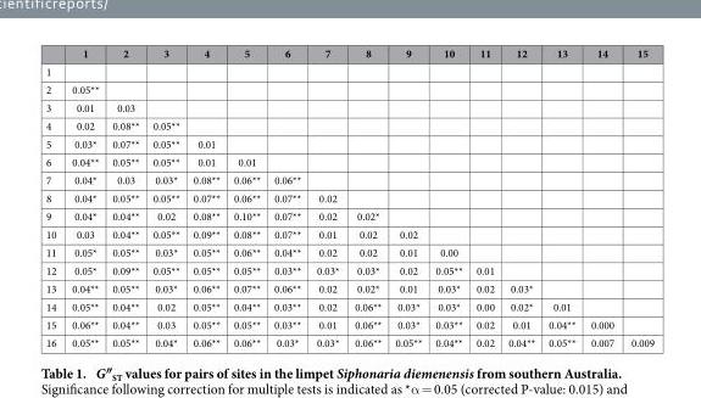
<table><thead><tr><td></td><td>1</td><td>2</td><td>3</td><td>4</td><td>5</td><td>6</td><td>7</td><td>8</td><td>9</td><td>10</td><td>11</td><td>12</td><td>13</td><td>14</td><td>15</td></tr></thead><tbody><tr><td colspan="16">1</td></tr><tr><td>2</td><td>0.05**</td><td></td><td></td><td></td><td></td><td></td><td></td><td></td><td></td><td></td><td></td><td></td><td></td><td></td><td></td></tr><tr><td>3</td><td>0.01</td><td>0.03</td><td></td><td></td><td></td><td></td><td></td><td></td><td></td><td></td><td></td><td></td><td></td><td></td><td></td></tr><tr><td>4</td><td>0.02</td><td>0.08**</td><td>0.05**</td><td></td><td></td><td></td><td></td><td></td><td></td><td></td><td></td><td></td><td></td><td></td><td></td></tr><tr><td>5</td><td>0.03*</td><td>0.07**</td><td>0.05**</td><td>0.01</td><td></td><td></td><td></td><td></td><td></td><td></td><td></td><td></td><td></td><td></td><td></td></tr><tr><td>6</td><td>0.04**</td><td>0.05**</td><td>0.05**</td><td>0.01</td><td>0.01</td><td></td><td></td><td></td><td></td><td></td><td></td><td></td><td></td><td></td><td></td></tr><tr><td>7</td><td>0.04*</td><td>0.03</td><td>0.03*</td><td>0.08**</td><td>0.06**</td><td>0.06**</td><td></td><td></td><td></td><td></td><td></td><td></td><td></td><td></td><td></td></tr><tr><td>8</td><td>0.04*</td><td>0.05**</td><td>0.05**</td><td>0.07**</td><td>0.06**</td><td>0.07**</td><td>0.02</td><td></td><td></td><td></td><td></td><td></td><td></td><td></td><td></td></tr><tr><td>9</td><td>0.04*</td><td>0.04**</td><td>0.02</td><td>0.08**</td><td>0.10**</td><td>0.07**</td><td>0.02</td><td>0.02*</td><td></td><td></td><td></td><td></td><td></td><td></td><td></td></tr><tr><td>10</td><td>0.03</td><td>0.04**</td><td>0.05**</td><td>0.09**</td><td>0.08**</td><td>0.07**</td><td>0.01</td><td>0.02</td><td>0.02</td><td></td><td></td><td></td><td></td><td></td><td></td></tr><tr><td>11</td><td>0.05*</td><td>0.05**</td><td>0.03*</td><td>0.05**</td><td>0.06**</td><td>0.04**</td><td>0.02</td><td>0.02</td><td>0.01</td><td>0.00</td><td></td><td></td><td></td><td></td><td></td></tr><tr><td>12</td><td>0.05*</td><td>0.09**</td><td>0.05**</td><td>0.05**</td><td>0.05**</td><td>0.03**</td><td>0.03*</td><td>0.03*</td><td>0.02</td><td>0.05**</td><td>0.01</td><td></td><td></td><td></td><td></td></tr><tr><td>13</td><td>0.04**</td><td>0.05**</td><td>0.03*</td><td>0.06**</td><td>0.07**</td><td>0.06**</td><td>0.02</td><td>0.02*</td><td>0.01</td><td>0.03*</td><td>0.02</td><td>0.03*</td><td></td><td></td><td></td></tr><tr><td>14</td><td>0.05**</td><td>0.04**</td><td>0.02</td><td>0.05**</td><td>0.04**</td><td>0.03**</td><td>0.02</td><td>0.06**</td><td>0.03*</td><td>0.03*</td><td>0.00</td><td>0.02*</td><td>0.01</td><td></td><td></td></tr><tr><td>15</td><td>0.06**</td><td>0.04**</td><td>0.03</td><td>0.05**</td><td>0.05**</td><td>0.03**</td><td>0.01</td><td>0.06**</td><td>0.03*</td><td>0.03**</td><td>0.02</td><td>0.01</td><td>0.04**</td><td>0.000</td><td></td></tr><tr><td>16</td><td>0.05**</td><td>0.05**</td><td>0.04*</td><td>0.06**</td><td>0.06**</td><td>0.03*</td><td>0.03*</td><td>0.06**</td><td>0.05**</td><td>0.04**</td><td>0.02</td><td>0.04**</td><td>0.05**</td><td>0.007</td><td>0.009</td></tr></tbody></table>